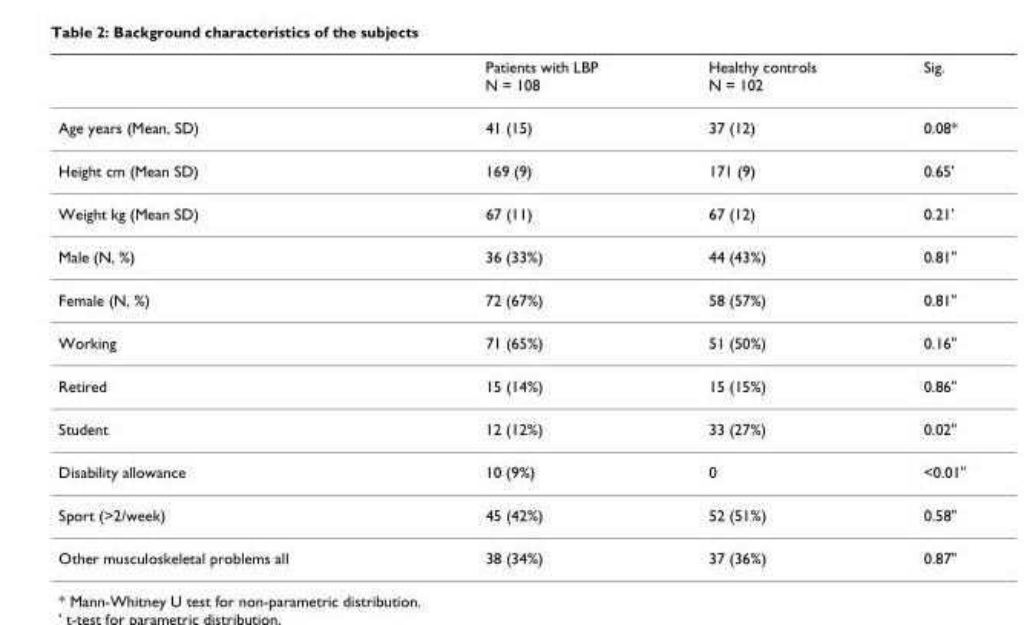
<table><thead><tr><td></td><td>Patients with LBP N = 108</td><td>Healthy controls N = 102</td><td>Sig.</td></tr></thead><tbody><tr><td>Age years (Mean, SD)</td><td>41 (15)</td><td>37 (12)</td><td>0.08*</td></tr><tr><td>Height cm (Mean SD)</td><td>169 (9)</td><td>171 (9)</td><td>0.65&#x27;</td></tr><tr><td>Weight kg (Mean SD)</td><td>67 (11)</td><td>67 (12)</td><td>0.21&#x27;</td></tr><tr><td>Male (N, %)</td><td>36 (33%)</td><td>44 (43%)</td><td>0.81&quot;</td></tr><tr><td>Female (N, %)</td><td>72 (67%)</td><td>58 (57%)</td><td>0.81&quot;</td></tr><tr><td>Working</td><td>71 (65%)</td><td>51 (50%)</td><td>0.16&quot;</td></tr><tr><td>Retired</td><td>15 (14%)</td><td>15 (15%)</td><td>0.86&quot;</td></tr><tr><td>Student</td><td>12 (12%)</td><td>33 (27%)</td><td>0.02&quot;</td></tr><tr><td>Disability allowance</td><td>10 (9%)</td><td>0</td><td>&lt;0.01&quot;</td></tr><tr><td>Sport (&gt;2/week)</td><td>45 (42%)</td><td>52 (51%)</td><td>0.58&quot;</td></tr><tr><td>Other musculoskeletal problems all</td><td>38 (34%)</td><td>37 (36%)</td><td>0.87&quot;</td></tr></tbody></table>